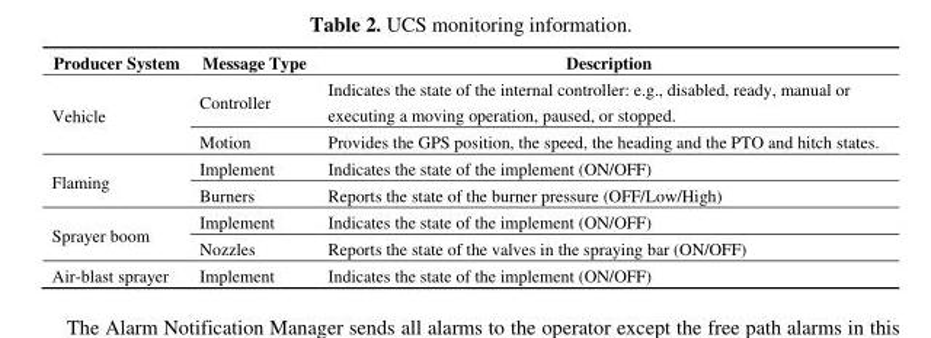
<table><thead><tr><td>Producer System</td><td>Message Type</td><td>Description</td></tr></thead><tbody><tr><td rowspan="2">Vehicle</td><td>Controller</td><td>Indicates the state of the internal controller: e.g., disabled, ready, manual or executing a moving operation, paused, or stopped.</td></tr><tr><td>Motion</td><td>Provides the GPS position, the speed, the heading and the PTO and hitch states.</td></tr><tr><td rowspan="2">Flaming</td><td>Implement</td><td>Indicates the state of the implement (ON/OFF)</td></tr><tr><td>Burners</td><td>Reports the state of the burner pressure (OFF/Low/High)</td></tr><tr><td rowspan="2">Sprayer boom</td><td>Implement</td><td>Indicates the state of the implement (ON/OFF)</td></tr><tr><td>Nozzles</td><td>Reports the state of the valves in the spraying bar (ON/OFF)</td></tr><tr><td>Air-blast sprayer</td><td>Implement</td><td>Indicates the state of the implement (ON/OFF)</td></tr></tbody></table>